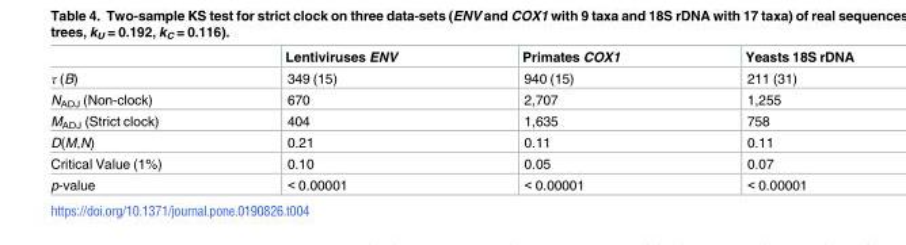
<table><thead><tr><td></td><td>Lentiviruses ENV</td><td>Primates COX1</td><td>Yeasts 18S rDNA</td></tr></thead><tbody><tr><td>τ (B)</td><td>349 (15)</td><td>940 (15)</td><td>211 (31)</td></tr><tr><td>N<sub>ADJ</sub> (Non-clock)</td><td>670</td><td>2,707</td><td>1,255</td></tr><tr><td>M<sub>ADJ</sub> (Strict clock)</td><td>404</td><td>1,635</td><td>758</td></tr><tr><td>D(M,N)</td><td>0.21</td><td>0.11</td><td>0.11</td></tr><tr><td>Critical Value (1%)</td><td>0.10</td><td>0.05</td><td>0.07</td></tr><tr><td>p-value</td><td>&lt; 0.00001</td><td>&lt; 0.00001</td><td>&lt; 0.00001</td></tr></tbody></table>